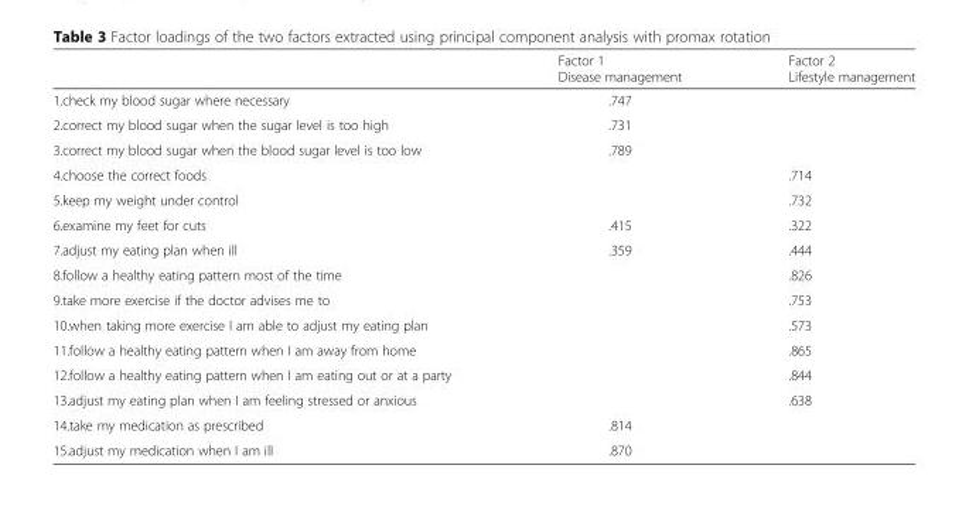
<table><thead><tr><td></td><td>Factor 1 Disease management</td><td>Factor 2 Lifestyle management</td></tr></thead><tbody><tr><td>1.check my blood sugar where necessary</td><td>.747</td><td></td></tr><tr><td>2.correct my blood sugar when the sugar level is too high</td><td>.731</td><td></td></tr><tr><td>3.correct my blood sugar when the blood sugar level is too low</td><td>.789</td><td></td></tr><tr><td>4.choose the correct foods</td><td></td><td>.714</td></tr><tr><td>5.keep my weight under control</td><td></td><td>.732</td></tr><tr><td>6.examine my feet for cuts</td><td>.415</td><td>.322</td></tr><tr><td>7.adjust my eating plan when ill</td><td>.359</td><td>.444</td></tr><tr><td>8.follow a healthy eating pattern most of the time</td><td></td><td>.826</td></tr><tr><td>9.take more exercise if the doctor advises me to</td><td></td><td>.753</td></tr><tr><td>10.when taking more exercise I am able to adjust my eating plan</td><td></td><td>.573</td></tr><tr><td>11.follow a healthy eating pattern when I am away from home</td><td></td><td>.865</td></tr><tr><td>12.follow a healthy eating pattern when I am eating out or at a party</td><td></td><td>.844</td></tr><tr><td>13.adjust my eating plan when I am feeling stressed or anxious</td><td></td><td>.638</td></tr><tr><td>14.take my medication as prescribed</td><td>.814</td><td></td></tr><tr><td>15.adjust my medication when I am ill</td><td>.870</td><td></td></tr></tbody></table>